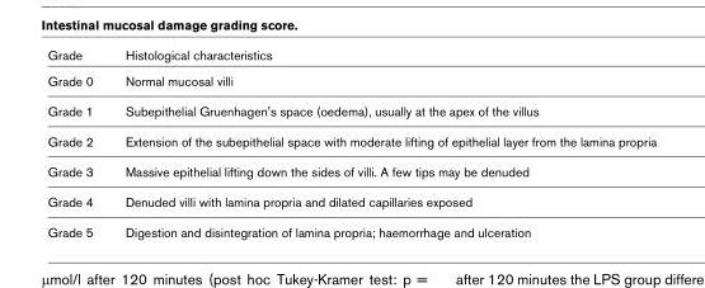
<table><thead><tr><td>Grade</td><td>Histological characteristics</td></tr></thead><tbody><tr><td>Grade 0</td><td>Normal mucosal villi</td></tr><tr><td>Grade 1</td><td>Subepithelial Gruenhagen&#x27;s space (oedema), usually at the apex of the villus</td></tr><tr><td>Grade 2</td><td>Extension of the subepithelial space with moderate lifting of epithelial layer from the lamina propria</td></tr><tr><td>Grade 3</td><td>Massive epithelial lifting down the sides of villi. A few tips may be denuded</td></tr><tr><td>Grade 4</td><td>Denuded villi with lamina propria and dilated capillaries exposed</td></tr><tr><td>Grade 5</td><td>Digestion and disintegration of lamina propria; haemorrhage and ulceration</td></tr></tbody></table>